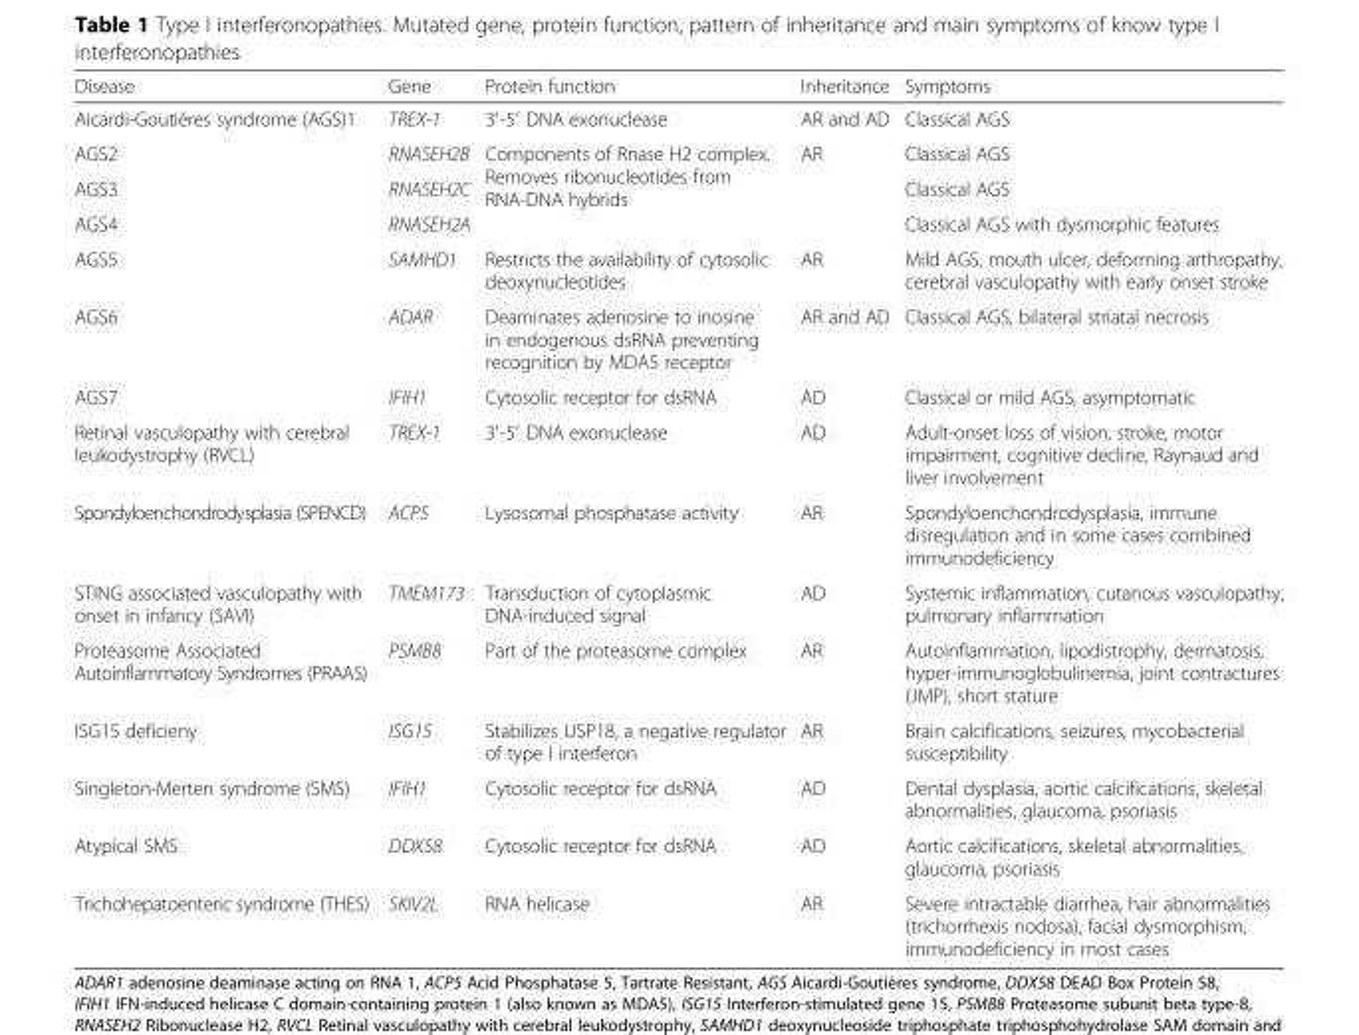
<table><thead><tr><td>Disease</td><td>Gene</td><td>Protein function</td><td>Inheritance</td><td>Symptoms</td></tr></thead><tbody><tr><td>Aicardi-Goutières syndrome (AGS)1</td><td>TREX-1</td><td>3′-5′ DNA exonuclease</td><td>AR and AD</td><td>Classical AGS</td></tr><tr><td>AGS2</td><td>RNASEH2B</td><td rowspan="3">Components of Rnase H2 complex. Removes ribonucleotides from RNA-DNA hybrids</td><td rowspan="3">AR</td><td>Classical AGS</td></tr><tr><td>AGS3</td><td>RNASEH2C</td><td>Classical AGS</td></tr><tr><td>AGS4</td><td>RNASEH2A</td><td>Classical AGS with dysmorphic features</td></tr><tr><td>AGS5</td><td>SAMHD1</td><td>Restricts the availability of cytosolic deoxynucleotides</td><td>AR</td><td>Mild AGS, mouth ulcer, deforming arthropathy, cerebral vasculopathy with early onset stroke</td></tr><tr><td>AGS6</td><td>ADAR</td><td>Deaminates adenosine to inosine in endogenous dsRNA preventing recognition by MDA5 receptor</td><td>AR and AD</td><td>Classical AGS, bilateral striatal necrosis</td></tr><tr><td>AGS7</td><td>IFIH1</td><td>Cytosolic receptor for dsRNA</td><td>AD</td><td>Classical or mild AGS, asymptomatic</td></tr><tr><td>Retinal vasculopathy with cerebral leukodystrophy (RVCL)</td><td>TREX-1</td><td>3′-5′ DNA exonuclease</td><td>AD</td><td>Adult-onset loss of vision, stroke, motor impairment, cognitive decline, Raynaud and liver involvement</td></tr><tr><td>Spondyloenchondrodysplasia (SPENCD)</td><td>ACP5</td><td>Lysosomal phosphatase activity</td><td>AR</td><td>Spondyloenchondrodysplasia, immune disregulation and in some cases combined immunodeficiency</td></tr><tr><td>STING associated vasculopathy with onset in infancy (SAVI)</td><td>TMEM173</td><td>Transduction of cytoplasmic DNA-induced signal</td><td>AD</td><td>Systemic inflammation, cutanous vasculopathy, pulmonary inflammation</td></tr><tr><td>Proteasome Associated Autoinflammatory Syndromes (PRAAS)</td><td>PSMB8</td><td>Part of the proteasome complex</td><td>AR</td><td>Autoinflammation, lipodistrophy, dermatosis, hyper-immunoglobulinemia, joint contractures (JMP), short stature</td></tr><tr><td>ISG15 deficieny</td><td>ISG15</td><td>Stabilizes USP18, a negative regulator of type I interferon</td><td>AR</td><td>Brain calcifications, seizures, mycobacterial susceptibility</td></tr><tr><td>Singleton-Merten syndrome (SMS)</td><td>IFIH1</td><td>Cytosolic receptor for dsRNA</td><td>AD</td><td>Dental dysplasia, aortic calcifications, skeletal abnormalities, glaucoma, psoriasis</td></tr><tr><td>Atypical SMS</td><td>DDX58</td><td>Cytosolic receptor for dsRNA</td><td>AD</td><td>Aortic calcifications, skeletal abnormalities, glaucoma, psoriasis</td></tr><tr><td>Trichohepatoenteric syndrome (THES)</td><td>SKIV2L</td><td>RNA helicase</td><td>AR</td><td>Severe intractable diarrhea, hair abnormalities (trichorrhexis nodosa), facial dysmorphism, immunodeficiency in most cases</td></tr></tbody></table>